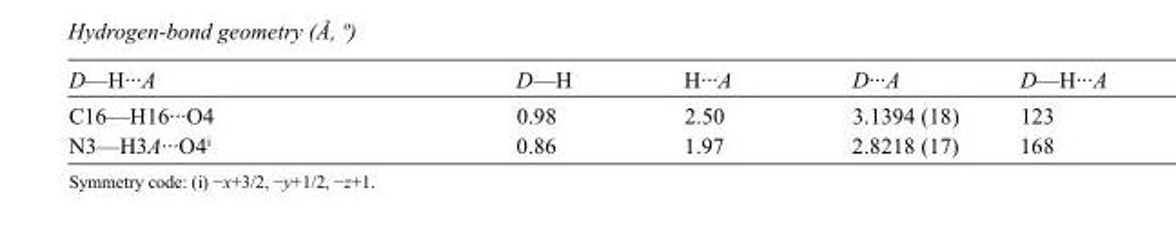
<table><tbody><tr><td>D—H···A</td><td>D—H</td><td>H···A</td><td>D···A</td><td>D—H···A</td></tr><tr><td>C16—H16···O4</td><td>0.98</td><td>2.50</td><td>3.1394 (18)</td><td>123</td></tr><tr><td>N3—H3A···O4<sup>i</sup></td><td>0.86</td><td>1.97</td><td>2.8218 (17)</td><td>168</td></tr></tbody></table>